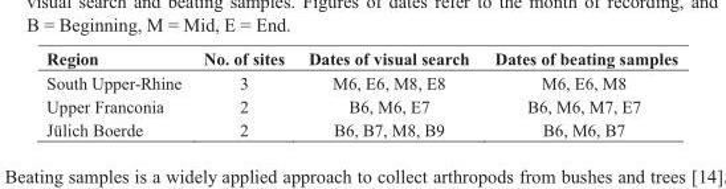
<table><thead><tr><td>Region</td><td>No. of sites</td><td>Dates of visual search</td><td>Dates of beating samples</td></tr></thead><tbody><tr><td>South Upper-Rhine</td><td>3</td><td>M6, E6, M8, E8</td><td>M6, E6, M8</td></tr><tr><td>Upper Franconia</td><td>2</td><td>B6, M6, E7</td><td>B6, M6, M7, E7</td></tr><tr><td>Jülich Boerde</td><td>2</td><td>B6, B7, M8, B9</td><td>B6, M6, B7</td></tr></tbody></table>